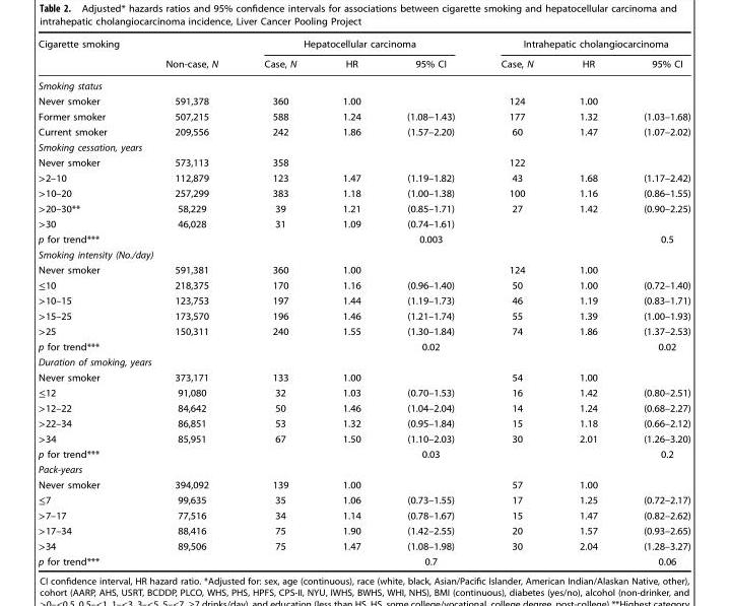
<table><thead><tr><td rowspan="2">Cigarette smoking</td><td rowspan="2">Non-case, N</td><td colspan="3">Hepatocellular carcinoma</td><td colspan="3">Intrahepatic cholangiocarcinoma</td></tr><tr><td>Case, N</td><td>HR</td><td>95% CI</td><td>Case, N</td><td>HR</td><td>95% CI</td></tr></thead><tbody><tr><td colspan="8">Smoking status</td></tr><tr><td>Never smoker</td><td>591,378</td><td>360</td><td>1.00</td><td></td><td>124</td><td>1.00</td><td></td></tr><tr><td>Former smoker</td><td>507,215</td><td>588</td><td>1.24</td><td>(1.08−1.43)</td><td>177</td><td>1.32</td><td>(1.03–1.68)</td></tr><tr><td>Current smoker</td><td>209,556</td><td>242</td><td>1.86</td><td>(1.57–2.20)</td><td>60</td><td>1.47</td><td>(1.07–2.02)</td></tr><tr><td colspan="8">Smoking cessation, years</td></tr><tr><td>Never smoker</td><td>573,113</td><td>358</td><td></td><td></td><td>122</td><td></td><td></td></tr><tr><td>&gt;2–10</td><td>112,879</td><td>123</td><td>1.47</td><td>(1.19–1.82)</td><td>43</td><td>1.68</td><td>(1.17–2.42)</td></tr><tr><td>&gt;10–20</td><td>257,299</td><td>383</td><td>1.18</td><td>(1.00–1.38)</td><td>100</td><td>1.16</td><td>(0.86–1.55)</td></tr><tr><td>&gt;20–30**</td><td>58,229</td><td>39</td><td>1.21</td><td>(0.85–1.71)</td><td>27</td><td>1.42</td><td>(0.90–2.25)</td></tr><tr><td>&gt;30</td><td>46,028</td><td>31</td><td>1.09</td><td>(0.74–1.61)</td><td></td><td></td><td></td></tr><tr><td>p for trend***</td><td></td><td></td><td></td><td>0.003</td><td></td><td></td><td>0.5</td></tr><tr><td colspan="8">Smoking intensity (No./day)</td></tr><tr><td>Never smoker</td><td>591,381</td><td>360</td><td>1.00</td><td></td><td>124</td><td>1.00</td><td></td></tr><tr><td>≤10</td><td>218,375</td><td>170</td><td>1.16</td><td>(0.96–1.40)</td><td>50</td><td>1.00</td><td>(0.72–1.40)</td></tr><tr><td>&gt;10–15</td><td>123,753</td><td>197</td><td>1.44</td><td>(1.19–1.73)</td><td>46</td><td>1.19</td><td>(0.83–1.71)</td></tr><tr><td>&gt;15–25</td><td>173,570</td><td>196</td><td>1.46</td><td>(1.21–1.74)</td><td>55</td><td>1.39</td><td>(1.00–1.93)</td></tr><tr><td>&gt;25</td><td>150,311</td><td>240</td><td>1.55</td><td>(1.30–1.84)</td><td>74</td><td>1.86</td><td>(1.37–2.53)</td></tr><tr><td>p for trend***</td><td></td><td></td><td></td><td>0.02</td><td></td><td></td><td>0.02</td></tr><tr><td colspan="8">Duration of smoking, years</td></tr><tr><td>Never smoker</td><td>373,171</td><td>133</td><td>1.00</td><td></td><td>54</td><td>1.00</td><td></td></tr><tr><td>≤12</td><td>91,080</td><td>32</td><td>1.03</td><td>(0.70–1.53)</td><td>16</td><td>1.42</td><td>(0.80–2.51)</td></tr><tr><td>&gt;12–22</td><td>84,642</td><td>50</td><td>1.46</td><td>(1.04–2.04)</td><td>14</td><td>1.24</td><td>(0.68–2.27)</td></tr><tr><td>&gt;22–34</td><td>86,851</td><td>53</td><td>1.32</td><td>(0.95–1.84)</td><td>15</td><td>1.18</td><td>(0.66–2.12)</td></tr><tr><td>&gt;34</td><td>85,951</td><td>67</td><td>1.50</td><td>(1.10–2.03)</td><td>30</td><td>2.01</td><td>(1.26–3.20)</td></tr><tr><td>p for trend***</td><td></td><td></td><td></td><td>0.03</td><td></td><td></td><td>0.2</td></tr><tr><td colspan="8">Pack-years</td></tr><tr><td>Never smoker</td><td>394,092</td><td>139</td><td>1.00</td><td></td><td>57</td><td>1.00</td><td></td></tr><tr><td>≤7</td><td>99,635</td><td>35</td><td>1.06</td><td>(0.73–1.55)</td><td>17</td><td>1.25</td><td>(0.72–2.17)</td></tr><tr><td>&gt;7–17</td><td>77,516</td><td>34</td><td>1.14</td><td>(0.78–1.67)</td><td>15</td><td>1.47</td><td>(0.82–2.62)</td></tr><tr><td>&gt;17–34</td><td>88,416</td><td>75</td><td>1.90</td><td>(1.42–2.55)</td><td>20</td><td>1.57</td><td>(0.93–2.65)</td></tr><tr><td>&gt;34</td><td>89,506</td><td>75</td><td>1.47</td><td>(1.08–1.98)</td><td>30</td><td>2.04</td><td>(1.28–3.27)</td></tr><tr><td>p for trend***</td><td></td><td></td><td></td><td>0.7</td><td></td><td></td><td>0.06</td></tr></tbody></table>